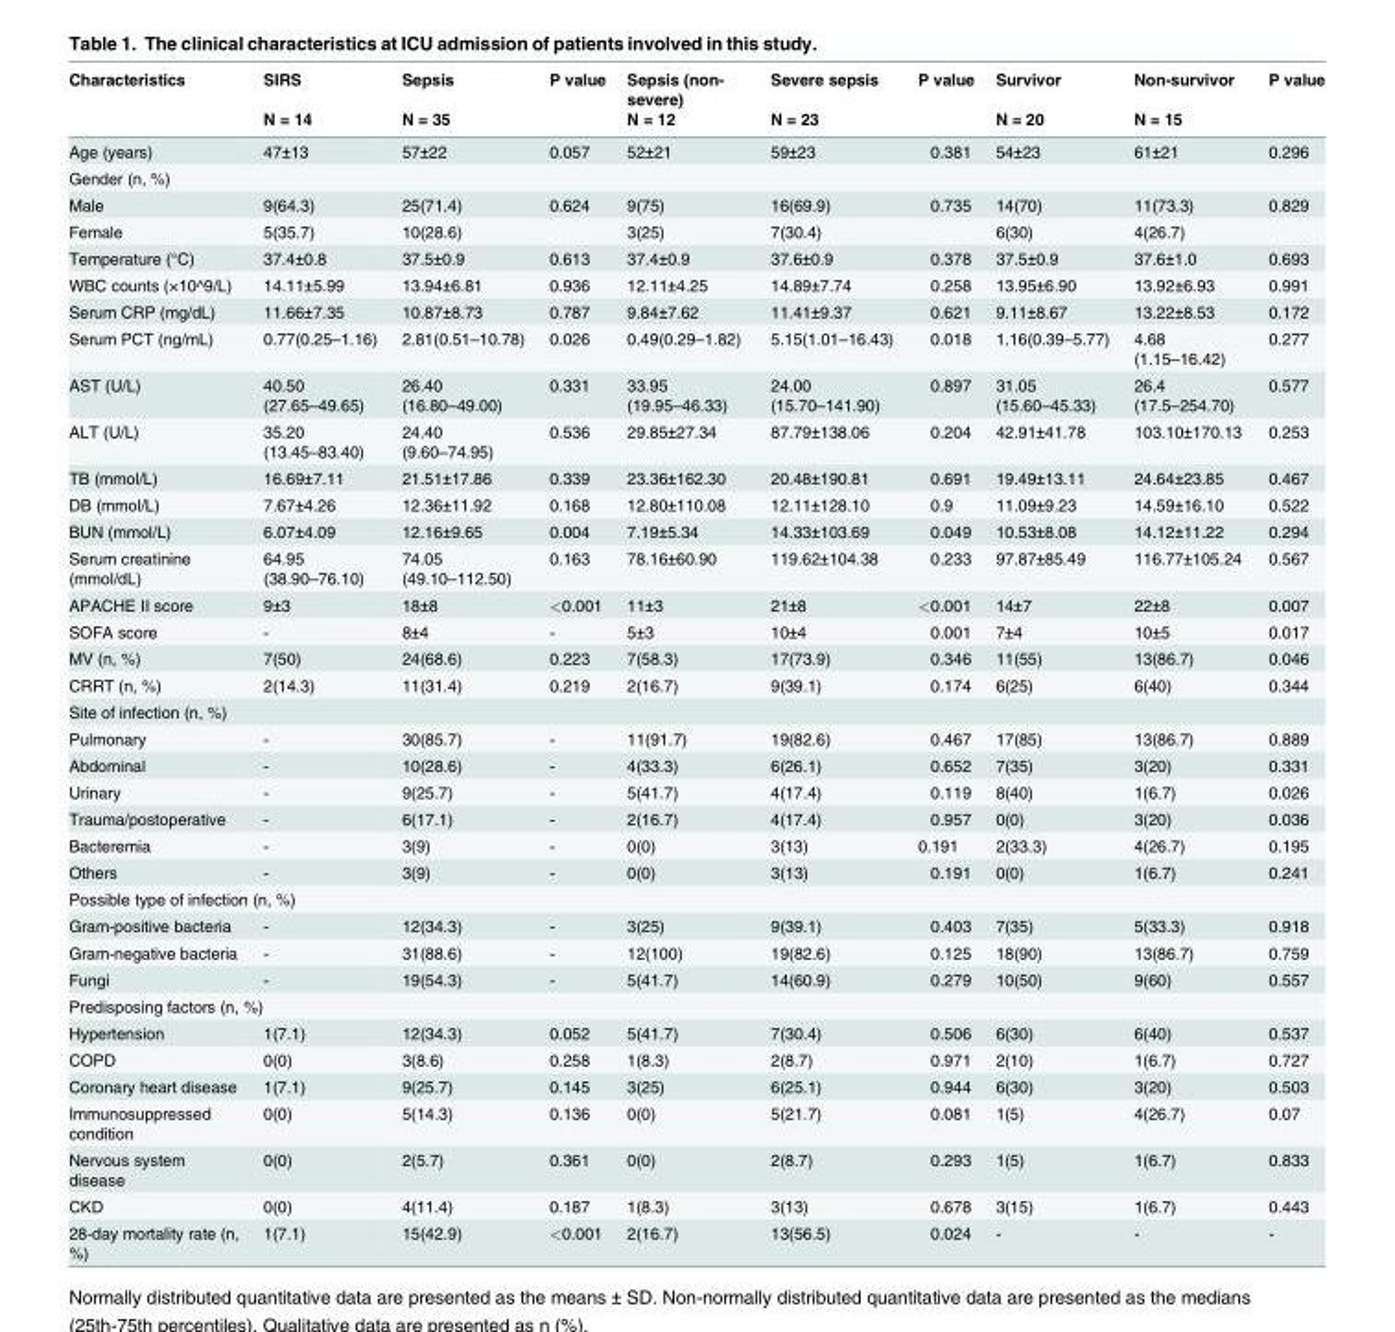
<table><thead><tr><td rowspan="2">Characteristics</td><td rowspan="2">SIRS N = 14</td><td rowspan="2">Sepsis N = 35</td><td rowspan="2">P value</td><td rowspan="2">Sepsis (non- severe) N = 12</td><td rowspan="2">Severe sepsis N = 23</td><td rowspan="2">P value</td><td rowspan="2">Survivor N = 20</td><td rowspan="2">Non-survivor N = 15</td><td rowspan="2">P value</td></tr><tr></tr></thead><tbody><tr><td>Age (years)</td><td>47±13</td><td>57±22</td><td>0.057</td><td>52±21</td><td>59±23</td><td>0.381</td><td>54±23</td><td>61±21</td><td>0.296</td></tr><tr><td colspan="10">Gender (n, %)</td></tr><tr><td>Male</td><td>9(64.3)</td><td>25(71.4)</td><td>0.624</td><td>9(75)</td><td>16(69.9)</td><td>0.735</td><td>14(70)</td><td>11(73.3)</td><td>0.829</td></tr><tr><td>Female</td><td>5(35.7)</td><td>10(28.6)</td><td></td><td>3(25)</td><td>7(30.4)</td><td></td><td>6(30)</td><td>4(26.7)</td><td></td></tr><tr><td>Temperature (°C)</td><td>37.4±0.8</td><td>37.5±0.9</td><td>0.613</td><td>37.4±0.9</td><td>37.6±0.9</td><td>0.378</td><td>37.5±0.9</td><td>37.6±1.0</td><td>0.693</td></tr><tr><td>WBC counts (×10^9/L)</td><td>14.11±5.99</td><td>13.94±6.81</td><td>0.936</td><td>12.11±4.25</td><td>14.89±7.74</td><td>0.258</td><td>13.95±6.90</td><td>13.92±6.93</td><td>0.991</td></tr><tr><td>Serum CRP (mg/dL)</td><td>11.66±7.35</td><td>10.87±8.73</td><td>0.787</td><td>9.84±7.62</td><td>11.41±9.37</td><td>0.621</td><td>9.11±8.67</td><td>13.22±8.53</td><td>0.172</td></tr><tr><td>Serum PCT (ng/mL)</td><td>0.77(0.25–1.16)</td><td>2.81(0.51–10.78)</td><td>0.026</td><td>0.49(0.29–1.82)</td><td>5.15(1.01–16.43)</td><td>0.018</td><td>1.16(0.39–5.77)</td><td>4.68 (1.15–16.42)</td><td>0.277</td></tr><tr><td>AST (U/L)</td><td>40.50 (27.65–49.65)</td><td>26.40 (16.80–49.00)</td><td>0.331</td><td>33.95 (19.95–46.33)</td><td>24.00 (15.70–141.90)</td><td>0.897</td><td>31.05 (15.60–45.33)</td><td>26.4 (17.5–254.70)</td><td>0.577</td></tr><tr><td>ALT (U/L)</td><td>35.20 (13.45–83.40)</td><td>24.40 (9.60–74.95)</td><td>0.536</td><td>29.85±27.34</td><td>87.79±138.06</td><td>0.204</td><td>42.91±41.78</td><td>103.10±170.13</td><td>0.253</td></tr><tr><td>TB (mmol/L)</td><td>16.69±7.11</td><td>21.51±17.86</td><td>0.339</td><td>23.36±162.30</td><td>20.48±190.81</td><td>0.691</td><td>19.49±13.11</td><td>24.64±23.85</td><td>0.467</td></tr><tr><td>DB (mmol/L)</td><td>7.67±4.26</td><td>12.36±11.92</td><td>0.168</td><td>12.80±110.08</td><td>12.11±128.10</td><td>0.9</td><td>11.09±9.23</td><td>14.59±16.10</td><td>0.522</td></tr><tr><td>BUN (mmol/L)</td><td>6.07±4.09</td><td>12.16±9.65</td><td>0.004</td><td>7.19±5.34</td><td>14.33±103.69</td><td>0.049</td><td>10.53±8.08</td><td>14.12±11.22</td><td>0.294</td></tr><tr><td>Serum creatinine (mmol/dL)</td><td>64.95 (38.90–76.10)</td><td>74.05 (49.10–112.50)</td><td>0.163</td><td>78.16±60.90</td><td>119.62±104.38</td><td>0.233</td><td>97.87±85.49</td><td>116.77±105.24</td><td>0.567</td></tr><tr><td>APACHE II score</td><td>9±3</td><td>18±8</td><td>&lt;0.001</td><td>11±3</td><td>21±8</td><td>&lt;0.001</td><td>14±7</td><td>22±8</td><td>0.007</td></tr><tr><td>SOFA score</td><td>-</td><td>8±4</td><td>-</td><td>5±3</td><td>10±4</td><td>0.001</td><td>7±4</td><td>10±5</td><td>0.017</td></tr><tr><td>MV (n, %)</td><td>7(50)</td><td>24(68.6)</td><td>0.223</td><td>7(58.3)</td><td>17(73.9)</td><td>0.346</td><td>11(55)</td><td>13(86.7)</td><td>0.046</td></tr><tr><td>CRRT (n, %)</td><td>2(14.3)</td><td>11(31.4)</td><td>0.219</td><td>2(16.7)</td><td>9(39.1)</td><td>0.174</td><td>6(25)</td><td>6(40)</td><td>0.344</td></tr><tr><td colspan="10">Site of infection (n, %)</td></tr><tr><td>Pulmonary</td><td>-</td><td>30(85.7)</td><td>-</td><td>11(91.7)</td><td>19(82.6)</td><td>0.467</td><td>17(85)</td><td>13(86.7)</td><td>0.889</td></tr><tr><td>Abdominal</td><td>-</td><td>10(28.6)</td><td>-</td><td>4(33.3)</td><td>6(26.1)</td><td>0.652</td><td>7(35)</td><td>3(20)</td><td>0.331</td></tr><tr><td>Urinary</td><td>-</td><td>9(25.7)</td><td>-</td><td>5(41.7)</td><td>4(17.4)</td><td>0.119</td><td>8(40)</td><td>1(6.7)</td><td>0.026</td></tr><tr><td>Trauma/postoperative</td><td>-</td><td>6(17.1)</td><td>-</td><td>2(16.7)</td><td>4(17.4)</td><td>0.957</td><td>0(0)</td><td>3(20)</td><td>0.036</td></tr><tr><td>Bacteremia</td><td>-</td><td>3(9)</td><td>-</td><td>0(0)</td><td>3(13)</td><td>0.191</td><td>2(33.3)</td><td>4(26.7)</td><td>0.195</td></tr><tr><td>Others</td><td>-</td><td>3(9)</td><td>-</td><td>0(0)</td><td>3(13)</td><td>0.191</td><td>0(0)</td><td>1(6.7)</td><td>0.241</td></tr><tr><td colspan="10">Possible type of infection (n, %)</td></tr><tr><td>Gram-positive bacteria</td><td>-</td><td>12(34.3)</td><td>-</td><td>3(25)</td><td>9(39.1)</td><td>0.403</td><td>7(35)</td><td>5(33.3)</td><td>0.918</td></tr><tr><td>Gram-negative bacteria</td><td>-</td><td>31(88.6)</td><td>-</td><td>12(100)</td><td>19(82.6)</td><td>0.125</td><td>18(90)</td><td>13(86.7)</td><td>0.759</td></tr><tr><td>Fungi</td><td>-</td><td>19(54.3)</td><td>-</td><td>5(41.7)</td><td>14(60.9)</td><td>0.279</td><td>10(50)</td><td>9(60)</td><td>0.557</td></tr><tr><td colspan="10">Predisposing factors (n, %)</td></tr><tr><td>Hypertension</td><td>1(7.1)</td><td>12(34.3)</td><td>0.052</td><td>5(41.7)</td><td>7(30.4)</td><td>0.506</td><td>6(30)</td><td>6(40)</td><td>0.537</td></tr><tr><td>COPD</td><td>0(0)</td><td>3(8.6)</td><td>0.258</td><td>1(8.3)</td><td>2(8.7)</td><td>0.971</td><td>2(10)</td><td>1(6.7)</td><td>0.727</td></tr><tr><td>Coronary heart disease</td><td>1(7.1)</td><td>9(25.7)</td><td>0.145</td><td>3(25)</td><td>6(25.1)</td><td>0.944</td><td>6(30)</td><td>3(20)</td><td>0.503</td></tr><tr><td>Immunosuppressed condition</td><td>0(0)</td><td>5(14.3)</td><td>0.136</td><td>0(0)</td><td>5(21.7)</td><td>0.081</td><td>1(5)</td><td>4(26.7)</td><td>0.07</td></tr><tr><td>Nervous system disease</td><td>0(0)</td><td>2(5.7)</td><td>0.361</td><td>0(0)</td><td>2(8.7)</td><td>0.293</td><td>1(5)</td><td>1(6.7)</td><td>0.833</td></tr><tr><td>CKD</td><td>0(0)</td><td>4(11.4)</td><td>0.187</td><td>1(8.3)</td><td>3(13)</td><td>0.678</td><td>3(15)</td><td>1(6.7)</td><td>0.443</td></tr><tr><td>28-day mortality rate (n, %)</td><td>1(7.1)</td><td>15(42.9)</td><td>&lt;0.001</td><td>2(16.7)</td><td>13(56.5)</td><td>0.024</td><td>-</td><td>-</td><td>-</td></tr></tbody></table>